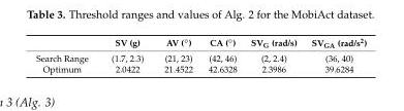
<table><thead><tr><td></td><td>SV (g)</td><td>AV (◦)</td><td>CA (◦)</td><td>SV<sub>G</sub> (rad/s)</td><td>SV<sub>GA</sub> (rad/s<sup>2</sup>)</td></tr></thead><tbody><tr><td>Search Range</td><td>(1.7, 2.3)</td><td>(21, 23)</td><td>(42, 46)</td><td>(2, 2.4)</td><td>(36, 40)</td></tr><tr><td>Optimum</td><td>2.0422</td><td>21.4522</td><td>42.6328</td><td>2.3986</td><td>39.6284</td></tr></tbody></table>